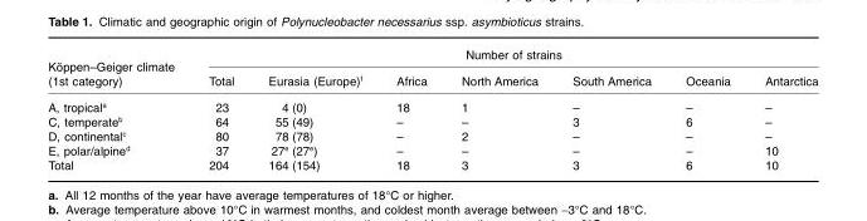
<table><thead><tr><td rowspan="2">Köppen–Geiger climate (1st category)</td><td colspan="7">Number of strains</td></tr><tr><td>Total</td><td>Eurasia (Europe)<sup>f</sup></td><td>Africa</td><td>North America</td><td>South America</td><td>Oceania</td><td>Antarctica</td></tr></thead><tbody><tr><td>A, tropical<sup>a</sup></td><td>23</td><td>4 (0)</td><td>18</td><td>1</td><td>–</td><td>–</td><td>–</td></tr><tr><td>C, temperate<sup>b</sup></td><td>64</td><td>55 (49)</td><td>–</td><td>–</td><td>3</td><td>6</td><td>–</td></tr><tr><td>D, continental<sup>c</sup></td><td>80</td><td>78 (78)</td><td>–</td><td>2</td><td>–</td><td>–</td><td>–</td></tr><tr><td>E, polar/alpine<sup>d</sup></td><td>37</td><td>27<sup>e</sup> (27<sup>e</sup>)</td><td>–</td><td>–</td><td>–</td><td>–</td><td>10</td></tr><tr><td>Total</td><td>204</td><td>164 (154)</td><td>18</td><td>3</td><td>3</td><td>6</td><td>10</td></tr></tbody></table>